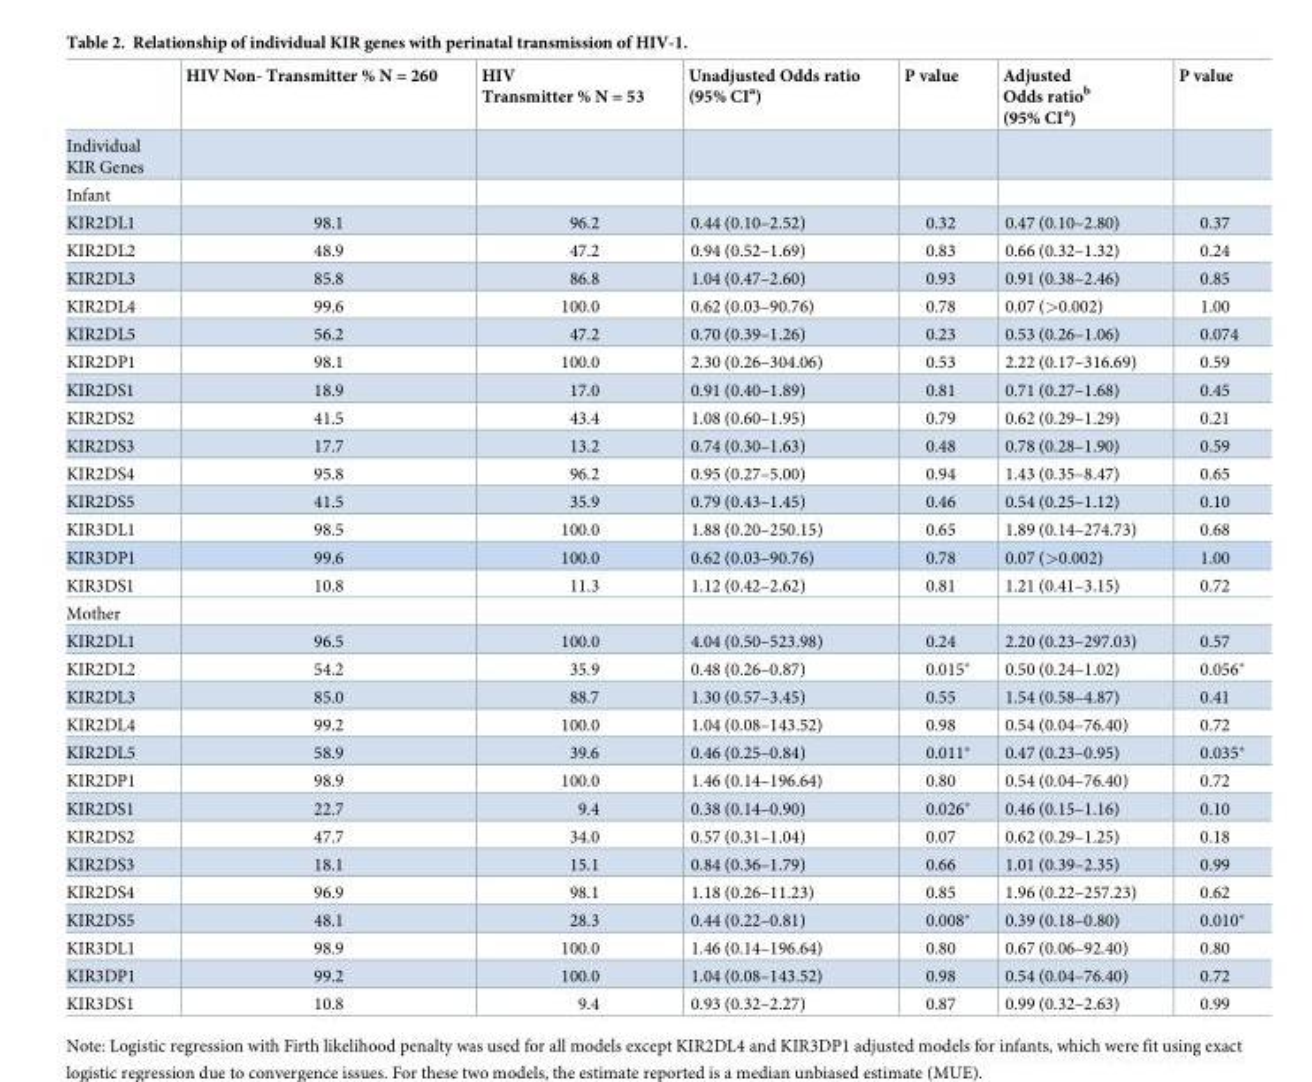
<table><thead><tr><td></td><td>HIV Non- Transmitter % N = 260</td><td>HIV Transmitter % N = 53</td><td>Unadjusted Odds ratio (95% CI<sup>a</sup>)</td><td>P value</td><td>Adjusted Odds ratio<sup>b</sup> (95% CI<sup>a</sup>)</td><td>P value</td></tr></thead><tbody><tr><td colspan="7">Individual KIR Genes</td></tr><tr><td colspan="7">Infant</td></tr><tr><td>KIR2DL1</td><td>98.1</td><td>96.2</td><td>0.44 (0.10–2.52)</td><td>0.32</td><td>0.47 (0.10–2.80)</td><td>0.37</td></tr><tr><td>KIR2DL2</td><td>48.9</td><td>47.2</td><td>0.94 (0.52–1.69)</td><td>0.83</td><td>0.66 (0.32–1.32)</td><td>0.24</td></tr><tr><td>KIR2DL3</td><td>85.8</td><td>86.8</td><td>1.04 (0.47–2.60)</td><td>0.93</td><td>0.91 (0.38–2.46)</td><td>0.85</td></tr><tr><td>KIR2DL4</td><td>99.6</td><td>100.0</td><td>0.62 (0.03–90.76)</td><td>0.78</td><td>0.07 (&gt;0.002)</td><td>1.00</td></tr><tr><td>KIR2DL5</td><td>56.2</td><td>47.2</td><td>0.70 (0.39–1.26)</td><td>0.23</td><td>0.53 (0.26–1.06)</td><td>0.074</td></tr><tr><td>KIR2DP1</td><td>98.1</td><td>100.0</td><td>2.30 (0.26–304.06)</td><td>0.53</td><td>2.22 (0.17–316.69)</td><td>0.59</td></tr><tr><td>KIR2DS1</td><td>18.9</td><td>17.0</td><td>0.91 (0.40–1.89)</td><td>0.81</td><td>0.71 (0.27–1.68)</td><td>0.45</td></tr><tr><td>KIR2DS2</td><td>41.5</td><td>43.4</td><td>1.08 (0.60–1.95)</td><td>0.79</td><td>0.62 (0.29–1.29)</td><td>0.21</td></tr><tr><td>KIR2DS3</td><td>17.7</td><td>13.2</td><td>0.74 (0.30–1.63)</td><td>0.48</td><td>0.78 (0.28–1.90)</td><td>0.59</td></tr><tr><td>KIR2DS4</td><td>95.8</td><td>96.2</td><td>0.95 (0.27–5.00)</td><td>0.94</td><td>1.43 (0.35–8.47)</td><td>0.65</td></tr><tr><td>KIR2DS5</td><td>41.5</td><td>35.9</td><td>0.79 (0.43–1.45)</td><td>0.46</td><td>0.54 (0.25–1.12)</td><td>0.10</td></tr><tr><td>KIR3DL1</td><td>98.5</td><td>100.0</td><td>1.88 (0.20–250.15)</td><td>0.65</td><td>1.89 (0.14–274.73)</td><td>0.68</td></tr><tr><td>KIR3DP1</td><td>99.6</td><td>100.0</td><td>0.62 (0.03–90.76)</td><td>0.78</td><td>0.07 (&gt;0.002)</td><td>1.00</td></tr><tr><td>KIR3DS1</td><td>10.8</td><td>11.3</td><td>1.12 (0.42–2.62)</td><td>0.81</td><td>1.21 (0.41–3.15)</td><td>0.72</td></tr><tr><td colspan="7">Mother</td></tr><tr><td>KIR2DL1</td><td>96.5</td><td>100.0</td><td>4.04 (0.50–523.98)</td><td>0.24</td><td>2.20 (0.23–297.03)</td><td>0.57</td></tr><tr><td>KIR2DL2</td><td>54.2</td><td>35.9</td><td>0.48 (0.26–0.87)</td><td>0.015*</td><td>0.50 (0.24–1.02)</td><td>0.056*</td></tr><tr><td>KIR2DL3</td><td>85.0</td><td>88.7</td><td>1.30 (0.57–3.45)</td><td>0.55</td><td>1.54 (0.58–4.87)</td><td>0.41</td></tr><tr><td>KIR2DL4</td><td>99.2</td><td>100.0</td><td>1.04 (0.08–143.52)</td><td>0.98</td><td>0.54 (0.04–76.40)</td><td>0.72</td></tr><tr><td>KIR2DL5</td><td>58.9</td><td>39.6</td><td>0.46 (0.25–0.84)</td><td>0.011*</td><td>0.47 (0.23–0.95)</td><td>0.035*</td></tr><tr><td>KIR2DP1</td><td>98.9</td><td>100.0</td><td>1.46 (0.14–196.64)</td><td>0.80</td><td>0.54 (0.04–76.40)</td><td>0.72</td></tr><tr><td>KIR2DS1</td><td>22.7</td><td>9.4</td><td>0.38 (0.14–0.90)</td><td>0.026*</td><td>0.46 (0.15–1.16)</td><td>0.10</td></tr><tr><td>KIR2DS2</td><td>47.7</td><td>34.0</td><td>0.57 (0.31–1.04)</td><td>0.07</td><td>0.62 (0.29–1.25)</td><td>0.18</td></tr><tr><td>KIR2DS3</td><td>18.1</td><td>15.1</td><td>0.84 (0.36–1.79)</td><td>0.66</td><td>1.01 (0.39–2.35)</td><td>0.99</td></tr><tr><td>KIR2DS4</td><td>96.9</td><td>98.1</td><td>1.18 (0.26–11.23)</td><td>0.85</td><td>1.96 (0.22–257.23)</td><td>0.62</td></tr><tr><td>KIR2DS5</td><td>48.1</td><td>28.3</td><td>0.44 (0.22–0.81)</td><td>0.008*</td><td>0.39 (0.18–0.80)</td><td>0.010*</td></tr><tr><td>KIR3DL1</td><td>98.9</td><td>100.0</td><td>1.46 (0.14–196.64)</td><td>0.80</td><td>0.67 (0.06–92.40)</td><td>0.80</td></tr><tr><td>KIR3DP1</td><td>99.2</td><td>100.0</td><td>1.04 (0.08–143.52)</td><td>0.98</td><td>0.54 (0.04–76.40)</td><td>0.72</td></tr><tr><td>KIR3DS1</td><td>10.8</td><td>9.4</td><td>0.93 (0.32–2.27)</td><td>0.87</td><td>0.99 (0.32–2.63)</td><td>0.99</td></tr></tbody></table>